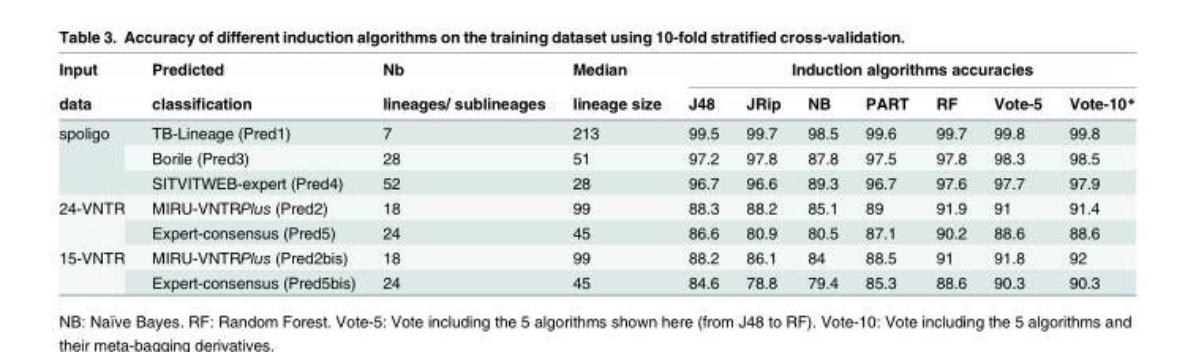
<table><thead><tr><td rowspan="2">Input data</td><td rowspan="2">Predicted classification</td><td rowspan="2">Nb lineages/ sublineages</td><td rowspan="2">Median lineage size</td><td colspan="7">Induction algorithms accuracies</td></tr><tr><td>J48</td><td>JRip</td><td>NB</td><td>PART</td><td>RF</td><td>Vote-5</td><td>Vote-10*</td></tr></thead><tbody><tr><td rowspan="3">spoligo</td><td>TB-Lineage (Pred1)</td><td>7</td><td>213</td><td>99.5</td><td>99.7</td><td>98.5</td><td>99.6</td><td>99.7</td><td>99.8</td><td>99.8</td></tr><tr><td>Borile (Pred3)</td><td>28</td><td>51</td><td>97.2</td><td>97.8</td><td>87.8</td><td>97.5</td><td>97.8</td><td>98.3</td><td>98.5</td></tr><tr><td>SITVITWEB-expert (Pred4)</td><td>52</td><td>28</td><td>96.7</td><td>96.6</td><td>89.3</td><td>96.7</td><td>97.6</td><td>97.7</td><td>97.9</td></tr><tr><td rowspan="2">24-VNTR</td><td>MIRU-VNTRPlus (Pred2)</td><td>18</td><td>99</td><td>88.3</td><td>88.2</td><td>85.1</td><td>89</td><td>91.9</td><td>91</td><td>91.4</td></tr><tr><td>Expert-consensus (Pred5)</td><td>24</td><td>45</td><td>86.6</td><td>80.9</td><td>80.5</td><td>87.1</td><td>90.2</td><td>88.6</td><td>88.6</td></tr><tr><td rowspan="2">15-VNTR</td><td>MIRU-VNTRPlus (Pred2bis)</td><td>18</td><td>99</td><td>88.2</td><td>86.1</td><td>84</td><td>88.5</td><td>91</td><td>91.8</td><td>92</td></tr><tr><td>Expert-consensus (Pred5bis)</td><td>24</td><td>45</td><td>84.6</td><td>78.8</td><td>79.4</td><td>85.3</td><td>88.6</td><td>90.3</td><td>90.3</td></tr></tbody></table>